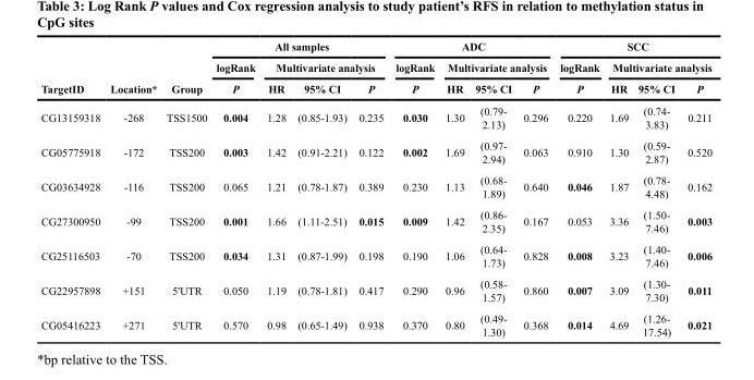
<table><thead><tr><td rowspan="3">TargetID</td><td rowspan="3">Location*</td><td rowspan="3">Group</td><td colspan="4">All samples</td><td colspan="4">ADC</td><td colspan="4">SCC</td></tr><tr><td rowspan="2">logRank P</td><td colspan="3">Multivariate analysis</td><td rowspan="2">logRank P</td><td colspan="3">Multivariate analysis</td><td rowspan="2">logRank P</td><td colspan="3">Multivariate analysis</td></tr><tr><td>HR</td><td>95% CI</td><td>P</td><td>HR</td><td>95% CI</td><td>P</td><td>HR</td><td>95% CI</td><td>P</td></tr></thead><tbody><tr><td>CG13159318</td><td>-268</td><td>TSS1500</td><td>0.004</td><td>1.28</td><td>(0.85-1.93)</td><td>0.235</td><td>0.030</td><td>1.30</td><td>(0.79- 2.13)</td><td>0.296</td><td>0.220</td><td>1.69</td><td>(0.74- 3.83)</td><td>0.211</td></tr><tr><td>CG05775918</td><td>-172</td><td>TSS200</td><td>0.003</td><td>1.42</td><td>(0.91-2.21)</td><td>0.122</td><td>0.002</td><td>1.69</td><td>(0.97- 2.94)</td><td>0.063</td><td>0.910</td><td>1.30</td><td>(0.59- 2.87)</td><td>0.520</td></tr><tr><td>CG03634928</td><td>-116</td><td>TSS200</td><td>0.065</td><td>1.21</td><td>(0.78-1.87)</td><td>0.389</td><td>0.230</td><td>1.13</td><td>(0.68- 1.89)</td><td>0.640</td><td>0.046</td><td>1.87</td><td>(0.78- 4.48)</td><td>0.162</td></tr><tr><td>CG27300950</td><td>-99</td><td>TSS200</td><td>0.001</td><td>1.66</td><td>(1.11-2.51)</td><td>0.015</td><td>0.009</td><td>1.42</td><td>(0.86- 2.35)</td><td>0.167</td><td>0.053</td><td>3.36</td><td>(1.50- 7.46)</td><td>0.003</td></tr><tr><td>CG25116503</td><td>-70</td><td>TSS200</td><td>0.034</td><td>1.31</td><td>(0.87-1.99)</td><td>0.198</td><td>0.190</td><td>1.06</td><td>(0.64- 1.73)</td><td>0.828</td><td>0.008</td><td>3.23</td><td>(1.40- 7.46)</td><td>0.006</td></tr><tr><td>CG22957898</td><td>+151</td><td>5&#x27;UTR</td><td>0.050</td><td>1.19</td><td>(0.78-1.81)</td><td>0.417</td><td>0.290</td><td>0.96</td><td>(0.58- 1.57)</td><td>0.860</td><td>0.007</td><td>3.09</td><td>(1.30- 7.30)</td><td>0.011</td></tr><tr><td>CG05416223</td><td>+271</td><td>5&#x27;UTR</td><td>0.570</td><td>0.98</td><td>(0.65-1.49)</td><td>0.938</td><td>0.370</td><td>0.80</td><td>(0.49- 1.30)</td><td>0.368</td><td>0.014</td><td>4.69</td><td>(1.26- 17.54)</td><td>0.021</td></tr></tbody></table>